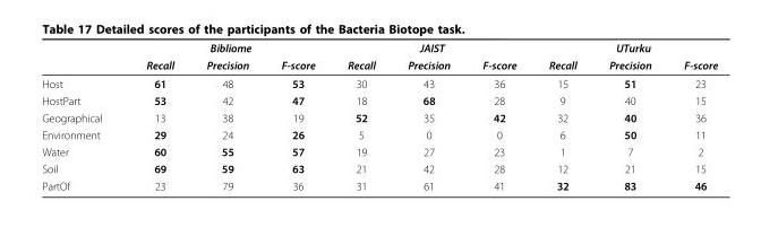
<table><thead><tr><td rowspan="2"></td><td colspan="3">Bibliome</td><td colspan="3">JAIST</td><td colspan="3">UTurku</td></tr><tr><td>Recall</td><td>Precision</td><td>F-score</td><td>Recall</td><td>Precision</td><td>F-score</td><td>Recall</td><td>Precision</td><td>F-score</td></tr></thead><tbody><tr><td>Host</td><td>61</td><td>48</td><td>53</td><td>30</td><td>43</td><td>36</td><td>15</td><td>51</td><td>23</td></tr><tr><td>HostPart</td><td>53</td><td>42</td><td>47</td><td>18</td><td>68</td><td>28</td><td>9</td><td>40</td><td>15</td></tr><tr><td>Geographical</td><td>13</td><td>38</td><td>19</td><td>52</td><td>35</td><td>42</td><td>32</td><td>40</td><td>36</td></tr><tr><td>Environment</td><td>29</td><td>24</td><td>26</td><td>5</td><td>0</td><td>0</td><td>6</td><td>50</td><td>11</td></tr><tr><td>Water</td><td>60</td><td>55</td><td>57</td><td>19</td><td>27</td><td>23</td><td>1</td><td>7</td><td>2</td></tr><tr><td>Soil</td><td>69</td><td>59</td><td>63</td><td>21</td><td>42</td><td>28</td><td>12</td><td>21</td><td>15</td></tr><tr><td>PartOf</td><td>23</td><td>79</td><td>36</td><td>31</td><td>61</td><td>41</td><td>32</td><td>83</td><td>46</td></tr></tbody></table>